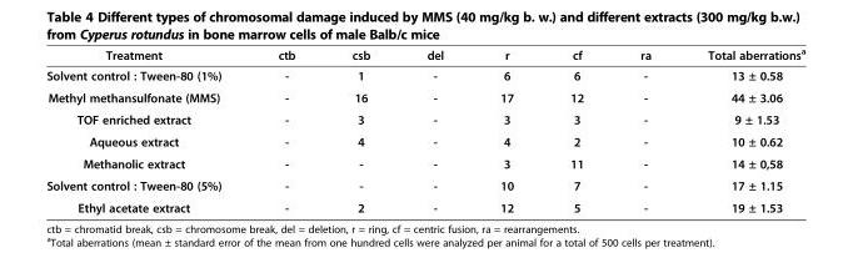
<table><thead><tr><td>Treatment</td><td>ctb</td><td>csb</td><td>del</td><td>r</td><td>cf</td><td>ra</td><td>Total aberrations<sup>a</sup></td></tr></thead><tbody><tr><td>Solvent control : Tween-80 (1%)</td><td>-</td><td>1</td><td>-</td><td>6</td><td>6</td><td>-</td><td>13 ± 0.58</td></tr><tr><td>Methyl methansulfonate (MMS)</td><td>-</td><td>16</td><td>-</td><td>17</td><td>12</td><td>-</td><td>44 ± 3.06</td></tr><tr><td>TOF enriched extract</td><td>-</td><td>3</td><td>-</td><td>3</td><td>3</td><td>-</td><td>9 ± 1.53</td></tr><tr><td>Aqueous extract</td><td>-</td><td>4</td><td>-</td><td>4</td><td>2</td><td>-</td><td>10 ± 0.62</td></tr><tr><td>Methanolic extract</td><td>-</td><td>-</td><td>-</td><td>3</td><td>11</td><td>-</td><td>14 ± 0,58</td></tr><tr><td>Solvent control : Tween-80 (5%)</td><td>-</td><td>-</td><td>-</td><td>10</td><td>7</td><td>-</td><td>17 ± 1.15</td></tr><tr><td>Ethyl acetate extract</td><td>-</td><td>2</td><td>-</td><td>12</td><td>5</td><td>-</td><td>19 ± 1.53</td></tr></tbody></table>